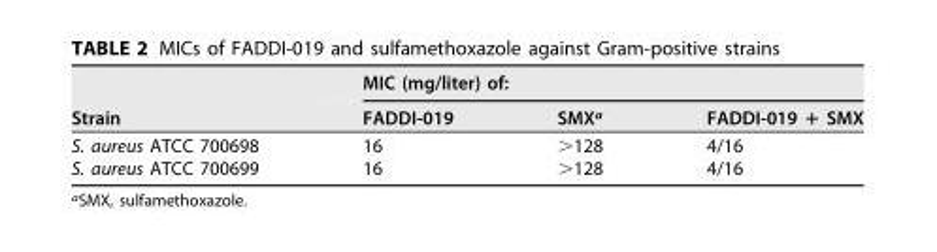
<table><thead><tr><td rowspan="2">Strain</td><td colspan="3">MIC (mg/liter) of:</td></tr><tr><td>FADDI-019</td><td>SMX<sup>a</sup></td><td>FADDI-019 + SMX</td></tr></thead><tbody><tr><td>S. aureus ATCC 700698</td><td>16</td><td>&gt;128</td><td>4/16</td></tr><tr><td>S. aureus ATCC 700699</td><td>16</td><td>&gt;128</td><td>4/16</td></tr></tbody></table>